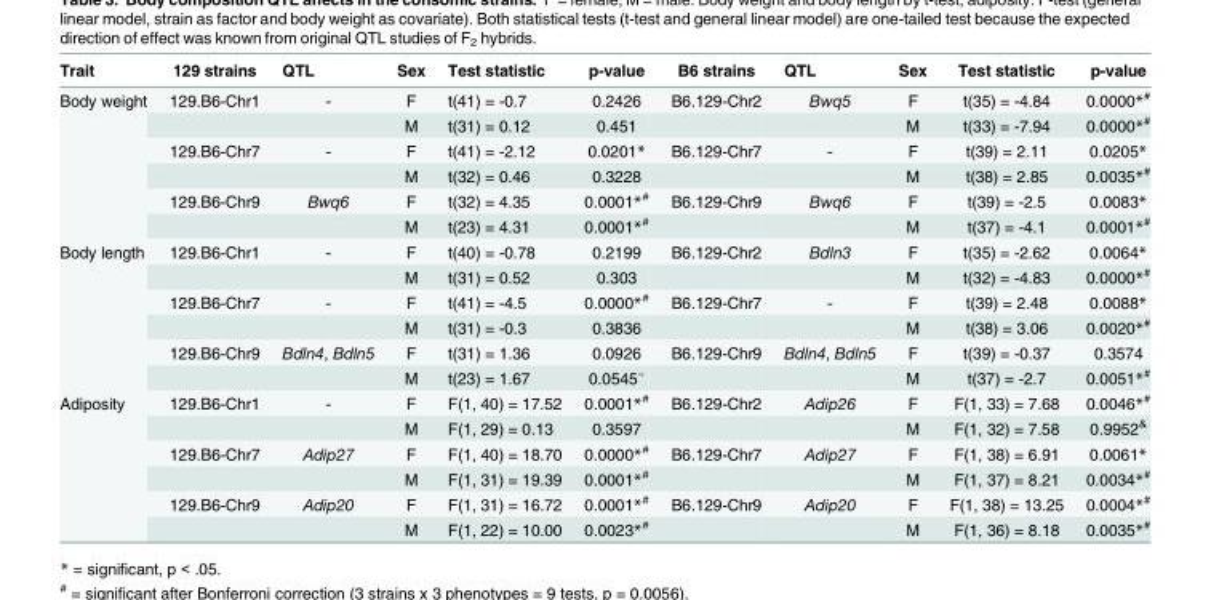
<table><thead><tr><td>Trait</td><td>129 strains</td><td>QTL</td><td>Sex</td><td>Test statistic</td><td>p-value</td><td>B6 strains</td><td>QTL</td><td>Sex</td><td>Test statistic</td><td>p-value</td></tr></thead><tbody><tr><td rowspan="6">Body weight</td><td>129.B6-Chr1</td><td>-</td><td>F</td><td>t(41) = -0.7</td><td>0.2426</td><td>B6.129-Chr2</td><td>Bwq5</td><td>F</td><td>t(35) = -4.84</td><td>0.0000*<sup>#</sup></td></tr><tr><td></td><td></td><td>M</td><td>t(31) = 0.12</td><td>0.451</td><td></td><td></td><td>M</td><td>t(33) = -7.94</td><td>0.0000*<sup>#</sup></td></tr><tr><td>129.B6-Chr7</td><td>-</td><td>F</td><td>t(41) = -2.12</td><td>0.0201*</td><td>B6.129-Chr7</td><td>-</td><td>F</td><td>t(39) = 2.11</td><td>0.0205*</td></tr><tr><td></td><td></td><td>M</td><td>t(32) = 0.46</td><td>0.3228</td><td></td><td></td><td>M</td><td>t(38) = 2.85</td><td>0.0035*<sup>#</sup></td></tr><tr><td>129.B6-Chr9</td><td>Bwq6</td><td>F</td><td>t(32) = 4.35</td><td>0.0001*<sup>#</sup></td><td>B6.129-Chr9</td><td>Bwq6</td><td>F</td><td>t(39) = -2.5</td><td>0.0083*</td></tr><tr><td></td><td></td><td>M</td><td>t(23) = 4.31</td><td>0.0001*<sup>#</sup></td><td></td><td></td><td>M</td><td>t(37) = -4.1</td><td>0.0001*<sup>#</sup></td></tr><tr><td rowspan="6">Body length</td><td>129.B6-Chr1</td><td>-</td><td>F</td><td>t(40) = -0.78</td><td>0.2199</td><td>B6.129-Chr2</td><td>Bdln3</td><td>F</td><td>t(35) = -2.62</td><td>0.0064*</td></tr><tr><td></td><td></td><td>M</td><td>t(31) = 0.52</td><td>0.303</td><td></td><td></td><td>M</td><td>t(32) = -4.83</td><td>0.0000*<sup>#</sup></td></tr><tr><td>129.B6-Chr7</td><td>-</td><td>F</td><td>t(41) = -4.5</td><td>0.0000*<sup>#</sup></td><td>B6.129-Chr7</td><td>-</td><td>F</td><td>t(39) = 2.48</td><td>0.0088*</td></tr><tr><td></td><td></td><td>M</td><td>t(31) = -0.3</td><td>0.3836</td><td></td><td></td><td>M</td><td>t(38) = 3.06</td><td>0.0020*<sup>#</sup></td></tr><tr><td>129.B6-Chr9</td><td>Bdln4, Bdln5</td><td>F</td><td>t(31) = 1.36</td><td>0.0926</td><td>B6.129-Chr9</td><td>Bdln4, Bdln5</td><td>F</td><td>t(39) = -0.37</td><td>0.3574</td></tr><tr><td></td><td></td><td>M</td><td>t(23) = 1.67</td><td>0.0545<sup>~</sup></td><td></td><td></td><td>M</td><td>t(37) = -2.7</td><td>0.0051*<sup>#</sup></td></tr><tr><td rowspan="6">Adiposity</td><td>129.B6-Chr1</td><td>-</td><td>F</td><td>F(1, 40) = 17.52</td><td>0.0001*<sup>#</sup></td><td>B6.129-Chr2</td><td>Adip26</td><td>F</td><td>F(1, 33) = 7.68</td><td>0.0046*<sup>#</sup></td></tr><tr><td></td><td></td><td>M</td><td>F(1, 29) = 0.13</td><td>0.3597</td><td></td><td></td><td>M</td><td>F(1, 32) = 7.58</td><td>0.9952<sup>&amp;</sup></td></tr><tr><td>129.B6-Chr7</td><td>Adip27</td><td>F</td><td>F(1, 40) = 18.70</td><td>0.0000*<sup>#</sup></td><td>B6.129-Chr7</td><td>Adip27</td><td>F</td><td>F(1, 38) = 6.91</td><td>0.0061*</td></tr><tr><td></td><td></td><td>M</td><td>F(1, 31) = 19.39</td><td>0.0001*<sup>#</sup></td><td></td><td></td><td>M</td><td>F(1, 37) = 8.21</td><td>0.0034*<sup>#</sup></td></tr><tr><td>129.B6-Chr9</td><td>Adip20</td><td>F</td><td>F(1, 31) = 16.72</td><td>0.0001*<sup>#</sup></td><td>B6.129-Chr9</td><td>Adip20</td><td>F</td><td>F(1, 38) = 13.25</td><td>0.0004*<sup>#</sup></td></tr><tr><td></td><td></td><td>M</td><td>F(1, 22) = 10.00</td><td>0.0023*<sup>#</sup></td><td></td><td></td><td>M</td><td>F(1, 36) = 8.18</td><td>0.0035*<sup>#</sup></td></tr></tbody></table>